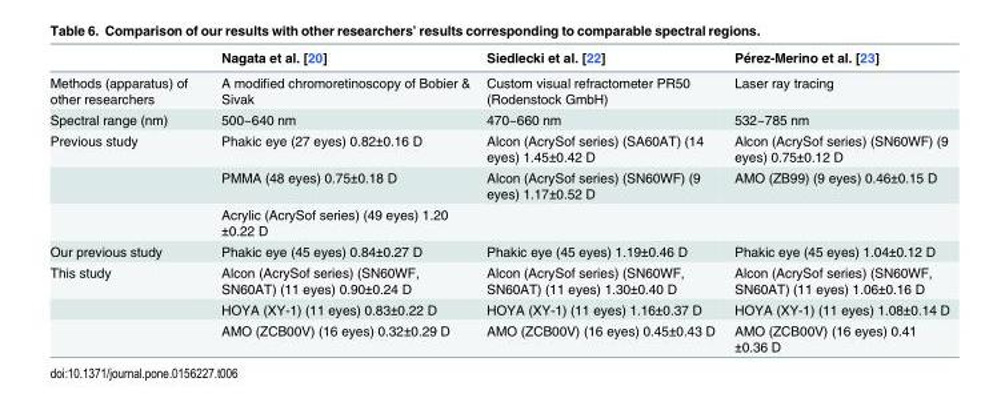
<table><thead><tr><td></td><td>Nagata et al. [20]</td><td>Siedlecki et al. [22]</td><td>Pérez-Merino et al. [23]</td></tr></thead><tbody><tr><td>Methods (apparatus) of other researchers</td><td>A modified chromoretinoscopy of Bobier &amp; Sivak</td><td>Custom visual refractometer PR50 (Rodenstock GmbH)</td><td>Laser ray tracing</td></tr><tr><td>Spectral range (nm)</td><td>500~640 nm</td><td>470~660 nm</td><td>532~785 nm</td></tr><tr><td rowspan="3">Previous study</td><td>Phakic eye (27 eyes) 0.82±0.16 D</td><td>Alcon (AcrySof series) (SA60AT) (14 eyes) 1.45±0.42 D</td><td>Alcon (AcrySof series) (SN60WF) (9 eyes) 0.75±0.12 D</td></tr><tr><td>PMMA (48 eyes) 0.75±0.18 D</td><td>Alcon (AcrySof series) (SN60WF) (9 eyes) 1.17±0.52 D</td><td>AMO (ZB99) (9 eyes) 0.46±0.15 D</td></tr><tr><td>Acrylic (AcrySof series) (49 eyes) 1.20 ±0.22 D</td><td></td><td></td></tr><tr><td>Our previous study</td><td>Phakic eye (45 eyes) 0.84±0.27 D</td><td>Phakic eye (45 eyes) 1.19±0.46 D</td><td>Phakic eye (45 eyes) 1.04±0.12 D</td></tr><tr><td rowspan="3">This study</td><td>Alcon (AcrySof series) (SN60WF, SN60AT) (11 eyes) 0.90±0.24 D</td><td>Alcon (AcrySof series) (SN60WF, SN60AT) (11 eyes) 1.30±0.40 D</td><td>Alcon (AcrySof series) (SN60WF, SN60AT) (11 eyes) 1.06±0.16 D</td></tr><tr><td>HOYA (XY-1) (11 eyes) 0.83±0.22 D</td><td>HOYA (XY-1) (11 eyes) 1.16±0.37 D</td><td>HOYA (XY-1) (11 eyes) 1.08±0.14 D</td></tr><tr><td>AMO (ZCB00V) (16 eyes) 0.32±0.29 D</td><td>AMO (ZCB00V) (16 eyes) 0.45±0.43 D</td><td>AMO (ZCB00V) (16 eyes) 0.41 ±0.36 D</td></tr></tbody></table>